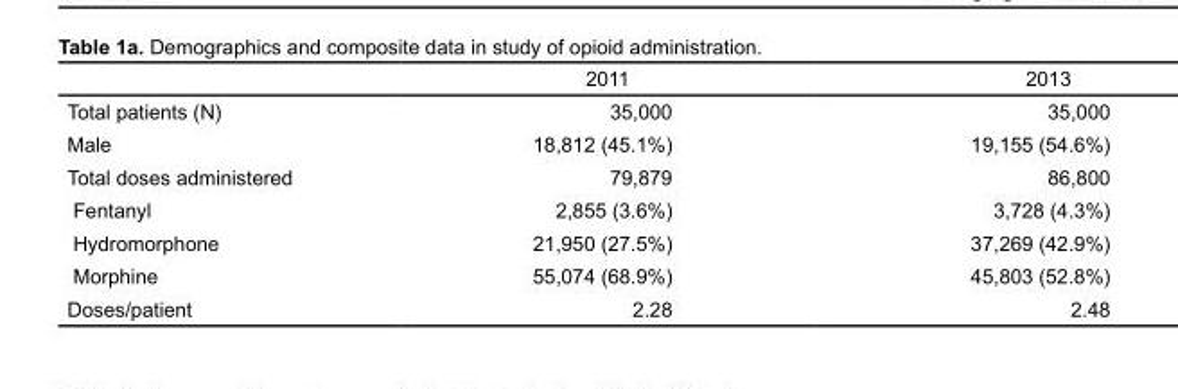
<table><thead><tr><td></td><td>2011</td><td>2013</td></tr></thead><tbody><tr><td>Total patients (N)</td><td>35,000</td><td>35,000</td></tr><tr><td>Male</td><td>18,812 (45.1%)</td><td>19,155 (54.6%)</td></tr><tr><td>Total doses administered</td><td>79,879</td><td>86,800</td></tr><tr><td>Fentanyl</td><td>2,855 (3.6%)</td><td>3,728 (4.3%)</td></tr><tr><td>Hydromorphone</td><td>21,950 (27.5%)</td><td>37,269 (42.9%)</td></tr><tr><td>Morphine</td><td>55,074 (68.9%)</td><td>45,803 (52.8%)</td></tr><tr><td>Doses/patient</td><td>2.28</td><td>2.48</td></tr></tbody></table>